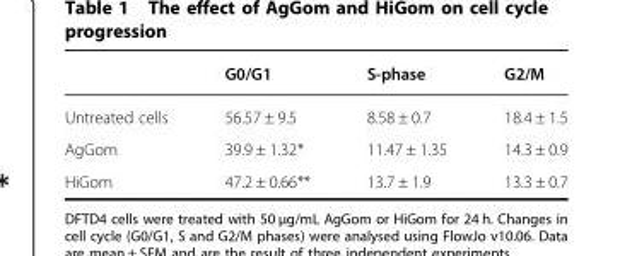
<table><thead><tr><td></td><td>G0/G1</td><td>S-phase</td><td>G2/M</td></tr></thead><tbody><tr><td>Untreated cells</td><td>56.57 ± 9.5</td><td>8.58 ± 0.7</td><td>18.4 ± 1.5</td></tr><tr><td>AgGom</td><td>39.9 ± 1.32*</td><td>11.47 ± 1.35</td><td>14.3 ± 0.9</td></tr><tr><td>HiGom</td><td>47.2 ± 0.66**</td><td>13.7 ± 1.9</td><td>13.3 ± 0.7</td></tr></tbody></table>